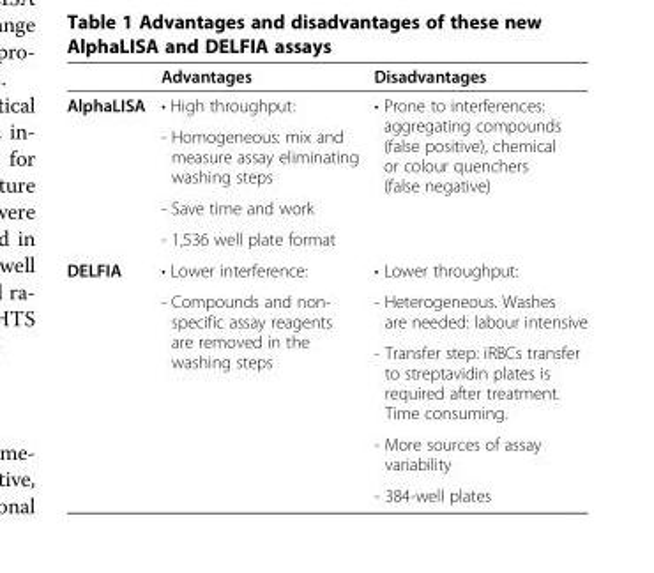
<table><thead><tr><td></td><td>Advantages</td><td>Disadvantages</td></tr></thead><tbody><tr><td rowspan="4">AlphaLISA</td><td>• High throughput:</td><td rowspan="4">• Prone to interferences: aggregating compounds (false positive), chemical or colour quenchers (false negative)</td></tr><tr><td>- Homogeneous: mix and measure assay eliminating washing steps</td></tr><tr><td>- Save time and work</td></tr><tr><td>- 1,536 well plate format</td></tr><tr><td rowspan="5">DELFIA</td><td>• Lower interference:</td><td>• Lower throughput:</td></tr><tr><td rowspan="4">- Compounds and non- specific assay reagents are removed in the washing steps</td><td>- Heterogeneous. Washes are needed: labour intensive</td></tr><tr><td>- Transfer step: iRBCs transfer to streptavidin plates is required after treatment. Time consuming.</td></tr><tr><td>- More sources of assay variability</td></tr><tr><td>- 384-well plates</td></tr></tbody></table>